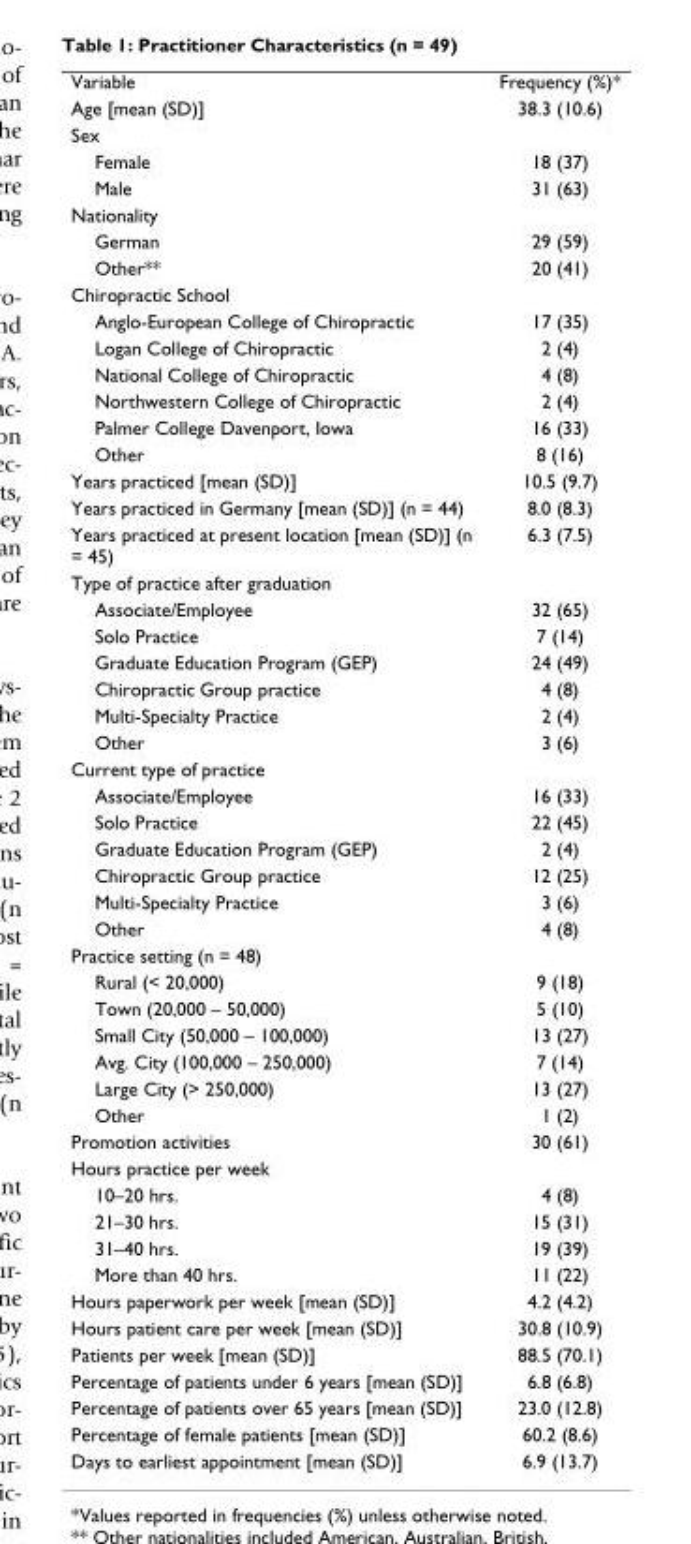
<table><tbody><tr><td>Variable</td><td>Frequency (%)*</td></tr><tr><td>Age [mean (SD)]</td><td>38.3 (10.6)</td></tr><tr><td colspan="2">Sex</td></tr><tr><td>Female</td><td>18 (37)</td></tr><tr><td>Male</td><td>31 (63)</td></tr><tr><td colspan="2">Nationality</td></tr><tr><td>German</td><td>29 (59)</td></tr><tr><td>Other**</td><td>20 (41)</td></tr><tr><td colspan="2">Chiropractic School</td></tr><tr><td>Anglo-European College of Chiropractic</td><td>17 (35)</td></tr><tr><td>Logan College of Chiropractic</td><td>2 (4)</td></tr><tr><td>National College of Chiropractic</td><td>4 (8)</td></tr><tr><td>Northwestern College of Chiropractic</td><td>2 (4)</td></tr><tr><td>Palmer College Davenport, Iowa</td><td>16 (33)</td></tr><tr><td>Other</td><td>8 (16)</td></tr><tr><td>Years practiced [mean (SD)]</td><td>10.5 (9.7)</td></tr><tr><td>Years practiced in Germany [mean (SD)] (n = 44)</td><td>8.0 (8.3)</td></tr><tr><td>Years practiced at present location [mean (SD)] (n = 45)</td><td>6.3 (7.5)</td></tr><tr><td colspan="2">Type of practice after graduation</td></tr><tr><td>Associate/Employee</td><td>32 (65)</td></tr><tr><td>Solo Practice</td><td>7 (14)</td></tr><tr><td>Graduate Education Program (GEP)</td><td>24 (49)</td></tr><tr><td>Chiropractic Group practice</td><td>4 (8)</td></tr><tr><td>Multi-Specialty Practice</td><td>2 (4)</td></tr><tr><td>Other</td><td>3 (6)</td></tr><tr><td colspan="2">Current type of practice</td></tr><tr><td>Associate/Employee</td><td>16 (33)</td></tr><tr><td>Solo Practice</td><td>22 (45)</td></tr><tr><td>Graduate Education Program (GEP)</td><td>2 (4)</td></tr><tr><td>Chiropractic Group practice</td><td>12 (25)</td></tr><tr><td>Multi-Specialty Practice</td><td>3 (6)</td></tr><tr><td>Other</td><td>4 (8)</td></tr><tr><td colspan="2">Practice setting (n = 48)</td></tr><tr><td>Rural (&lt; 20,000)</td><td>9 (18)</td></tr><tr><td>Town (20,000 – 50,000)</td><td>5 (10)</td></tr><tr><td>Small City (50,000 – 100,000)</td><td>13 (27)</td></tr><tr><td>Avg. City (100,000 – 250,000)</td><td>7 (14)</td></tr><tr><td>Large City (&gt; 250,000)</td><td>13 (27)</td></tr><tr><td>Other</td><td>1 (2)</td></tr><tr><td>Promotion activities</td><td>30 (61)</td></tr><tr><td colspan="2">Hours practice per week</td></tr><tr><td>10–20 hrs.</td><td>4 (8)</td></tr><tr><td>21–30 hrs.</td><td>15 (31)</td></tr><tr><td>31–40 hrs.</td><td>19 (39)</td></tr><tr><td>More than 40 hrs.</td><td>11 (22)</td></tr><tr><td>Hours paperwork per week [mean (SD)]</td><td>4.2 (4.2)</td></tr><tr><td>Hours patient care per week [mean (SD)]</td><td>30.8 (10.9)</td></tr><tr><td>Patients per week [mean (SD)]</td><td>88.5 (70.1)</td></tr><tr><td>Percentage of patients under 6 years [mean (SD)]</td><td>6.8 (6.8)</td></tr><tr><td>Percentage of patients over 65 years [mean (SD)]</td><td>23.0 (12.8)</td></tr><tr><td>Percentage of female patients [mean (SD)]</td><td>60.2 (8.6)</td></tr><tr><td>Days to earliest appointment [mean (SD)]</td><td>6.9 (13.7)</td></tr></tbody></table>